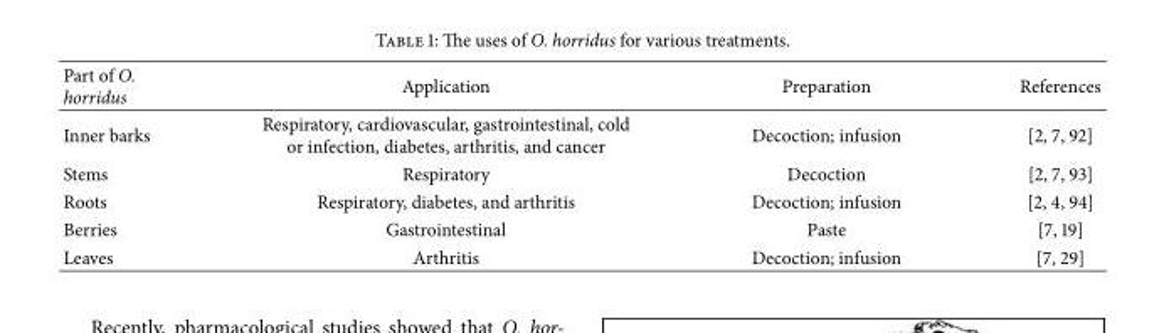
<table><thead><tr><td>Part of O. horridus</td><td>Application</td><td>Preparation</td><td>References</td></tr></thead><tbody><tr><td>Inner barks</td><td>Respiratory, cardiovascular, gastrointestinal, cold or infection, diabetes, arthritis, and cancer</td><td>Decoction; infusion</td><td>[2, 7, 92]</td></tr><tr><td>Stems</td><td>Respiratory</td><td>Decoction</td><td>[2, 7, 93]</td></tr><tr><td>Roots</td><td>Respiratory, diabetes, and arthritis</td><td>Decoction; infusion</td><td>[2, 4, 94]</td></tr><tr><td>Berries</td><td>Gastrointestinal</td><td>Paste</td><td>[7, 19]</td></tr><tr><td>Leaves</td><td>Arthritis</td><td>Decoction; infusion</td><td>[7, 29]</td></tr></tbody></table>